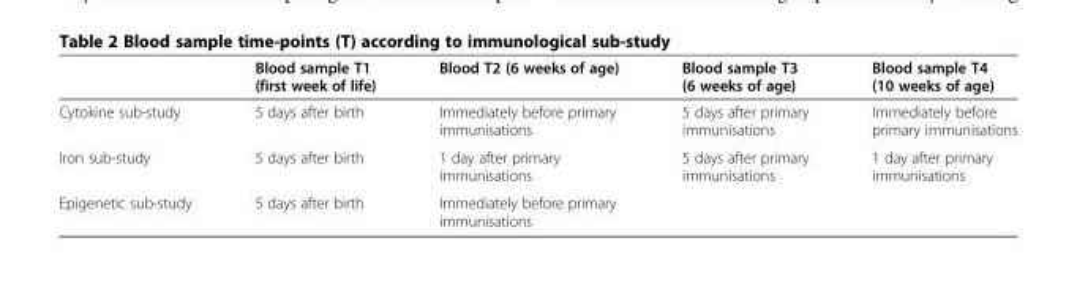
<table><thead><tr><td></td><td>Blood sample T1 (first week of life)</td><td>Blood T2 (6 weeks of age)</td><td>Blood sample T3 (6 weeks of age)</td><td>Blood sample T4 (10 weeks of age)</td></tr></thead><tbody><tr><td>Cytokine sub-study</td><td>5 days after birth</td><td>Immediately before primary immunisations</td><td>5 days after primary immunisations</td><td>Immediately before primary immunisations</td></tr><tr><td>Iron sub-study</td><td>5 days after birth</td><td>1 day after primary immunisations</td><td>5 days after primary immunisations</td><td>1 day after primary immunisations</td></tr><tr><td>Epigenetic sub-study</td><td>5 days after birth</td><td>Immediately before primary immunisations</td><td></td><td></td></tr></tbody></table>